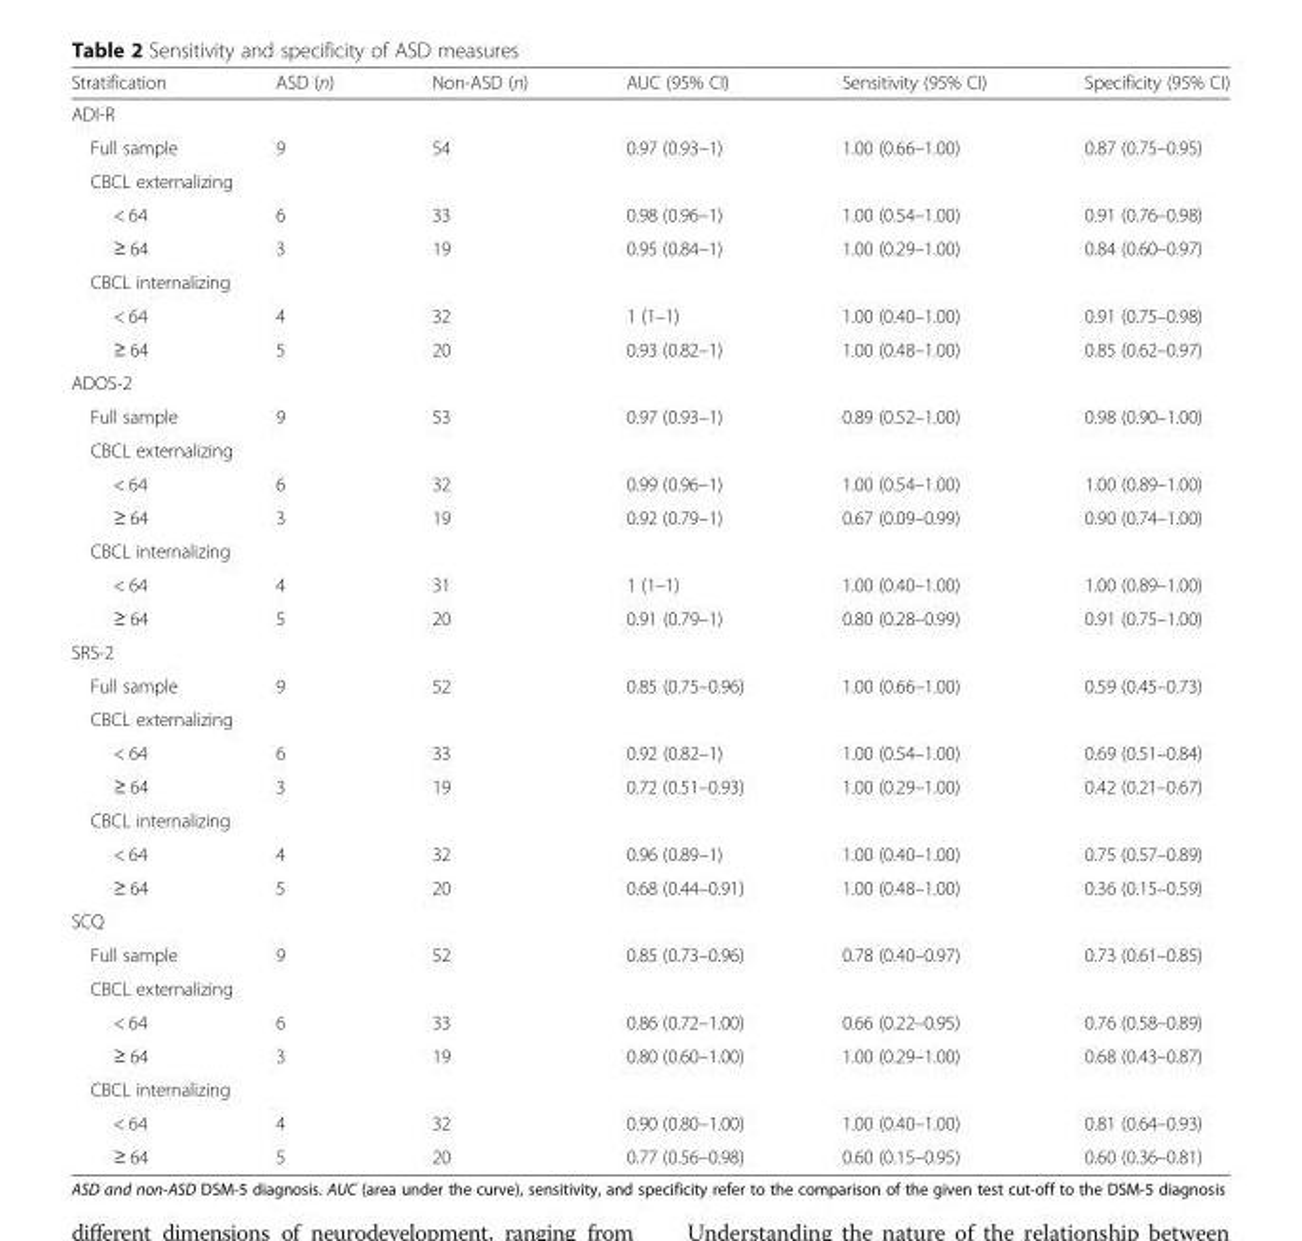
<table><thead><tr><td>Stratification</td><td>ASD (n)</td><td>Non-ASD (n)</td><td>AUC (95% CI)</td><td>Sensitivity (95% CI)</td><td>Specificity (95% CI)</td></tr></thead><tbody><tr><td colspan="6">ADI-R</td></tr><tr><td>Full sample</td><td>9</td><td>54</td><td>0.97 (0.93–1)</td><td>1.00 (0.66–1.00)</td><td>0.87 (0.75–0.95)</td></tr><tr><td colspan="6">CBCL externalizing</td></tr><tr><td>&lt; 64</td><td>6</td><td>33</td><td>0.98 (0.96–1)</td><td>1.00 (0.54–1.00)</td><td>0.91 (0.76–0.98)</td></tr><tr><td>≥ 64</td><td>3</td><td>19</td><td>0.95 (0.84–1)</td><td>1.00 (0.29–1.00)</td><td>0.84 (0.60–0.97)</td></tr><tr><td colspan="6">CBCL internalizing</td></tr><tr><td>&lt; 64</td><td>4</td><td>32</td><td>1 (1–1)</td><td>1.00 (0.40–1.00)</td><td>0.91 (0.75–0.98)</td></tr><tr><td>≥ 64</td><td>5</td><td>20</td><td>0.93 (0.82–1)</td><td>1.00 (0.48–1.00)</td><td>0.85 (0.62–0.97)</td></tr><tr><td colspan="6">ADOS-2</td></tr><tr><td>Full sample</td><td>9</td><td>53</td><td>0.97 (0.93–1)</td><td>0.89 (0.52–1.00)</td><td>0.98 (0.90–1.00)</td></tr><tr><td colspan="6">CBCL externalizing</td></tr><tr><td>&lt; 64</td><td>6</td><td>32</td><td>0.99 (0.96–1)</td><td>1.00 (0.54–1.00)</td><td>1.00 (0.89–1.00)</td></tr><tr><td>≥ 64</td><td>3</td><td>19</td><td>0.92 (0.79–1)</td><td>0.67 (0.09–0.99)</td><td>0.90 (0.74–1.00)</td></tr><tr><td colspan="6">CBCL internalizing</td></tr><tr><td>&lt; 64</td><td>4</td><td>31</td><td>1 (1–1)</td><td>1.00 (0.40–1.00)</td><td>1.00 (0.89–1.00)</td></tr><tr><td>≥ 64</td><td>5</td><td>20</td><td>0.91 (0.79–1)</td><td>0.80 (0.28–0.99)</td><td>0.91 (0.75–1.00)</td></tr><tr><td colspan="6">SRS-2</td></tr><tr><td>Full sample</td><td>9</td><td>52</td><td>0.85 (0.75–0.96)</td><td>1.00 (0.66–1.00)</td><td>0.59 (0.45–0.73)</td></tr><tr><td colspan="6">CBCL externalizing</td></tr><tr><td>&lt; 64</td><td>6</td><td>33</td><td>0.92 (0.82–1)</td><td>1.00 (0.54–1.00)</td><td>0.69 (0.51–0.84)</td></tr><tr><td>≥ 64</td><td>3</td><td>19</td><td>0.72 (0.51–0.93)</td><td>1.00 (0.29–1.00)</td><td>0.42 (0.21–0.67)</td></tr><tr><td colspan="6">CBCL internalizing</td></tr><tr><td>&lt; 64</td><td>4</td><td>32</td><td>0.96 (0.89–1)</td><td>1.00 (0.40–1.00)</td><td>0.75 (0.57–0.89)</td></tr><tr><td>≥ 64</td><td>5</td><td>20</td><td>0.68 (0.44–0.91)</td><td>1.00 (0.48–1.00)</td><td>0.36 (0.15–0.59)</td></tr><tr><td colspan="6">SCQ</td></tr><tr><td>Full sample</td><td>9</td><td>52</td><td>0.85 (0.73–0.96)</td><td>0.78 (0.40–0.97)</td><td>0.73 (0.61–0.85)</td></tr><tr><td colspan="6">CBCL externalizing</td></tr><tr><td>&lt; 64</td><td>6</td><td>33</td><td>0.86 (0.72–1.00)</td><td>0.66 (0.22–0.95)</td><td>0.76 (0.58–0.89)</td></tr><tr><td>≥ 64</td><td>3</td><td>19</td><td>0.80 (0.60–1.00)</td><td>1.00 (0.29–1.00)</td><td>0.68 (0.43–0.87)</td></tr><tr><td colspan="6">CBCL internalizing</td></tr><tr><td>&lt; 64</td><td>4</td><td>32</td><td>0.90 (0.80–1.00)</td><td>1.00 (0.40–1.00)</td><td>0.81 (0.64–0.93)</td></tr><tr><td>≥ 64</td><td>5</td><td>20</td><td>0.77 (0.56–0.98)</td><td>0.60 (0.15–0.95)</td><td>0.60 (0.36–0.81)</td></tr></tbody></table>